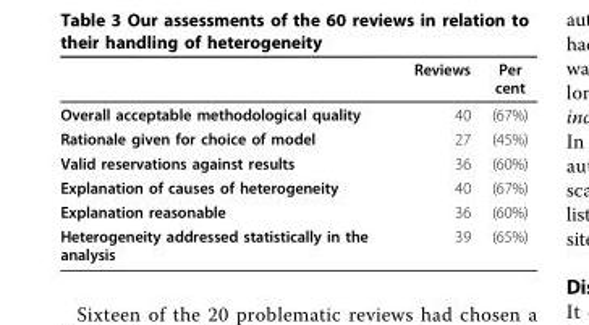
<table><thead><tr><td></td><td>Reviews</td><td>Per cent</td></tr></thead><tbody><tr><td>Overall acceptable methodological quality</td><td>40</td><td>(67%)</td></tr><tr><td>Rationale given for choice of model</td><td>27</td><td>(45%)</td></tr><tr><td>Valid reservations against results</td><td>36</td><td>(60%)</td></tr><tr><td>Explanation of causes of heterogeneity</td><td>40</td><td>(67%)</td></tr><tr><td>Explanation reasonable</td><td>36</td><td>(60%)</td></tr><tr><td>Heterogeneity addressed statistically in the analysis</td><td>39</td><td>(65%)</td></tr></tbody></table>